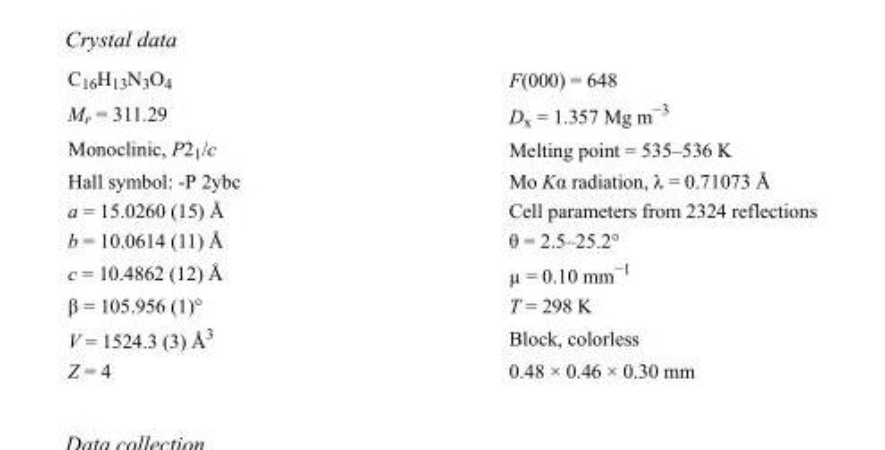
<table><tbody><tr><td>C<sub>16</sub>H<sub>13</sub>N<sub>3</sub>O<sub>4</sub></td><td>F(000) = 648</td></tr><tr><td>M<sub>r</sub> = 311.29</td><td>D<sub>x</sub> = 1.357 Mg m<sup>−3</sup></td></tr><tr><td>Monoclinic, P2<sub>1</sub>/c</td><td>Melting point = 535–536 K</td></tr><tr><td>Hall symbol: -P 2ybc</td><td>Mo Kα radiation, λ = 0.71073 Å</td></tr><tr><td>a = 15.0260 (15) Å</td><td>Cell parameters from 2324 reflections</td></tr><tr><td>b = 10.0614 (11) Å</td><td>θ = 2.5–25.2°</td></tr><tr><td>c = 10.4862 (12) Å</td><td>µ = 0.10 mm<sup>−1</sup></td></tr><tr><td>β = 105.956 (1)°</td><td>T = 298 K</td></tr><tr><td>V = 1524.3 (3) Å<sup>3</sup></td><td>Block, colorless</td></tr><tr><td>Z = 4</td><td>0.48 × 0.46 × 0.30 mm</td></tr></tbody></table>